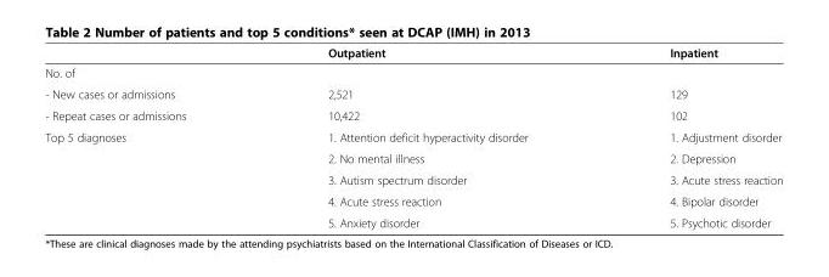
<table><thead><tr><td></td><td>Outpatient</td><td>Inpatient</td></tr></thead><tbody><tr><td colspan="3">No. of</td></tr><tr><td>- New cases or admissions</td><td>2,521</td><td>129</td></tr><tr><td>- Repeat cases or admissions</td><td>10,422</td><td>102</td></tr><tr><td rowspan="5">Top 5 diagnoses</td><td>1. Attention deficit hyperactivity disorder</td><td>1. Adjustment disorder</td></tr><tr><td>2. No mental illness</td><td>2. Depression</td></tr><tr><td>3. Autism spectrum disorder</td><td>3. Acute stress reaction</td></tr><tr><td>4. Acute stress reaction</td><td>4. Bipolar disorder</td></tr><tr><td>5. Anxiety disorder</td><td>5. Psychotic disorder</td></tr></tbody></table>